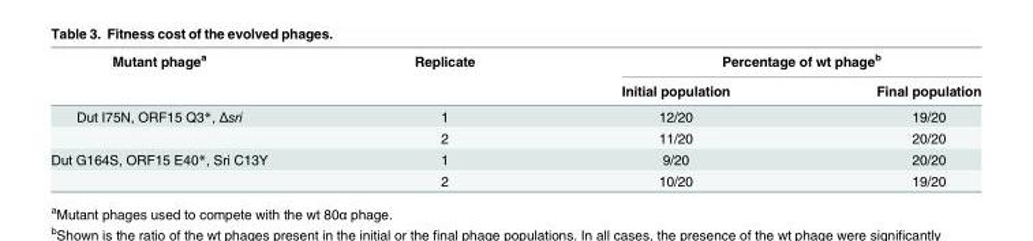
<table><thead><tr><td rowspan="2">Mutant phage<sup>a</sup></td><td rowspan="2">Replicate</td><td colspan="2">Percentage of wt phage<sup>b</sup></td></tr><tr><td>Initial population</td><td>Final population</td></tr></thead><tbody><tr><td rowspan="2">Dut I75N, ORF15 Q3*, Δsri</td><td>1</td><td>12/20</td><td>19/20</td></tr><tr><td>2</td><td>11/20</td><td>20/20</td></tr><tr><td rowspan="2">Dut G164S, ORF15 E40*, Sri C13Y</td><td>1</td><td>9/20</td><td>20/20</td></tr><tr><td>2</td><td>10/20</td><td>19/20</td></tr></tbody></table>